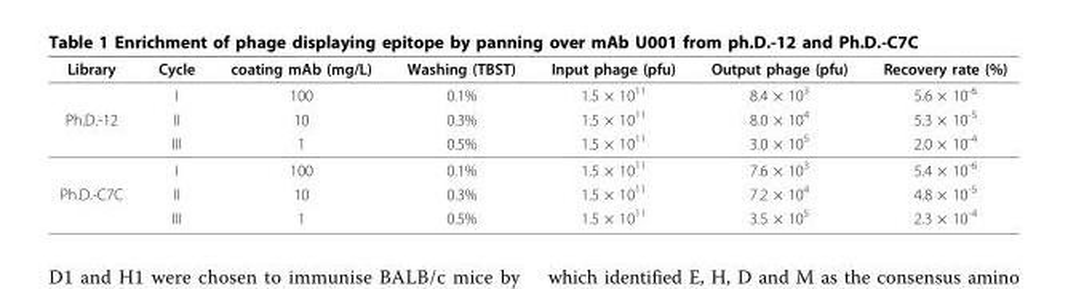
<table><thead><tr><td>Library</td><td>Cycle</td><td>coating mAb (mg/L)</td><td>Washing (TBST)</td><td>Input phage (pfu)</td><td>Output phage (pfu)</td><td>Recovery rate (%)</td></tr></thead><tbody><tr><td></td><td>I</td><td>100</td><td>0.1%</td><td>1.5 × 10<sup>11</sup></td><td>8.4 × 10<sup>3</sup></td><td>5.6 × 10<sup>-6</sup></td></tr><tr><td rowspan="3">Ph.D.-12</td><td>II</td><td>10</td><td>0.3%</td><td>1.5 × 10<sup>11</sup></td><td>8.0 × 10<sup>4</sup></td><td>5.3 × 10<sup>-5</sup></td></tr><tr><td>III</td><td>1</td><td>0.5%</td><td>1.5 × 10<sup>11</sup></td><td>3.0 × 10<sup>5</sup></td><td>2.0 × 10<sup>-4</sup></td></tr><tr><td>I</td><td>100</td><td>0.1%</td><td>1.5 × 10<sup>11</sup></td><td>7.6 × 10<sup>3</sup></td><td>5.4 × 10<sup>-6</sup></td></tr><tr><td rowspan="2">Ph.D.-C7C</td><td>II</td><td>10</td><td>0.3%</td><td>1.5 × 10<sup>11</sup></td><td>7.2 × 10<sup>4</sup></td><td>4.8 × 10<sup>-5</sup></td></tr><tr><td>III</td><td>1</td><td>0.5%</td><td>1.5 × 10<sup>11</sup></td><td>3.5 × 10<sup>5</sup></td><td>2.3 × 10<sup>-4</sup></td></tr></tbody></table>